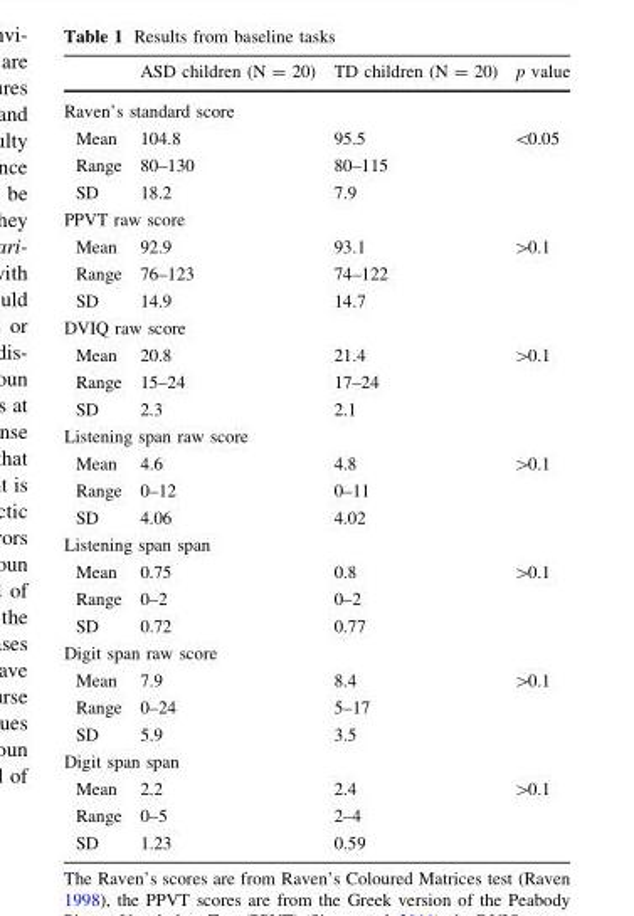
<table><thead><tr><td></td><td>ASD children (N = 20)</td><td>TD children (N = 20)</td><td>p value</td></tr></thead><tbody><tr><td colspan="4">Raven’s standard score</td></tr><tr><td>Mean</td><td>104.8</td><td>95.5</td><td>&lt;0.05</td></tr><tr><td>Range</td><td>80–130</td><td>80–115</td><td></td></tr><tr><td>SD</td><td>18.2</td><td>7.9</td><td></td></tr><tr><td colspan="4">PPVT raw score</td></tr><tr><td>Mean</td><td>92.9</td><td>93.1</td><td>&gt;0.1</td></tr><tr><td>Range</td><td>76–123</td><td>74–122</td><td></td></tr><tr><td>SD</td><td>14.9</td><td>14.7</td><td></td></tr><tr><td colspan="4">DVIQ raw score</td></tr><tr><td>Mean</td><td>20.8</td><td>21.4</td><td>&gt;0.1</td></tr><tr><td>Range</td><td>15–24</td><td>17–24</td><td></td></tr><tr><td>SD</td><td>2.3</td><td>2.1</td><td></td></tr><tr><td colspan="4">Listening span raw score</td></tr><tr><td>Mean</td><td>4.6</td><td>4.8</td><td>&gt;0.1</td></tr><tr><td>Range</td><td>0–12</td><td>0–11</td><td></td></tr><tr><td>SD</td><td>4.06</td><td>4.02</td><td></td></tr><tr><td colspan="4">Listening span span</td></tr><tr><td>Mean</td><td>0.75</td><td>0.8</td><td>&gt;0.1</td></tr><tr><td>Range</td><td>0–2</td><td>0–2</td><td></td></tr><tr><td>SD</td><td>0.72</td><td>0.77</td><td></td></tr><tr><td colspan="4">Digit span raw score</td></tr><tr><td>Mean</td><td>7.9</td><td>8.4</td><td>&gt;0.1</td></tr><tr><td>Range</td><td>0–24</td><td>5–17</td><td></td></tr><tr><td>SD</td><td>5.9</td><td>3.5</td><td></td></tr><tr><td colspan="4">Digit span span</td></tr><tr><td>Mean</td><td>2.2</td><td>2.4</td><td>&gt;0.1</td></tr><tr><td>Range</td><td>0–5</td><td>2–4</td><td></td></tr><tr><td>SD</td><td>1.23</td><td>0.59</td><td></td></tr></tbody></table>